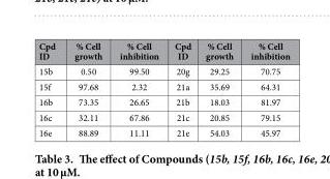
<table><thead><tr><td>Cpd ID</td><td>% Cell growth</td><td>% Cell inhibition</td><td>Cpd ID</td><td>% Cell growth</td><td>% Cell inhibition</td></tr></thead><tbody><tr><td>15b</td><td>0.50</td><td>99.50</td><td>20g</td><td>29.25</td><td>70.75</td></tr><tr><td>15f</td><td>97.68</td><td>2.32</td><td>21a</td><td>35.69</td><td>64.31</td></tr><tr><td>16b</td><td>73.35</td><td>26.65</td><td>21b</td><td>18.03</td><td>81.97</td></tr><tr><td>16c</td><td>32.11</td><td>67.86</td><td>21c</td><td>20.85</td><td>79.15</td></tr><tr><td>16e</td><td>88.89</td><td>11.11</td><td>21e</td><td>54.03</td><td>45.97</td></tr></tbody></table>